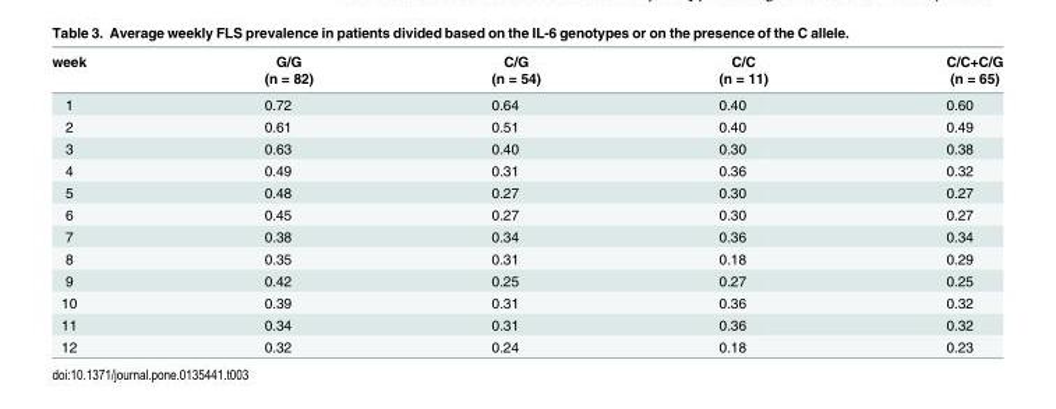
<table><thead><tr><td rowspan="2">week</td><td rowspan="2">G/G (n = 82)</td><td rowspan="2">C/G (n = 54)</td><td rowspan="2">C/C (n = 11)</td><td rowspan="2">C/C+C/G (n = 65)</td></tr><tr></tr></thead><tbody><tr><td>1</td><td>0.72</td><td>0.64</td><td>0.40</td><td>0.60</td></tr><tr><td>2</td><td>0.61</td><td>0.51</td><td>0.40</td><td>0.49</td></tr><tr><td>3</td><td>0.63</td><td>0.40</td><td>0.30</td><td>0.38</td></tr><tr><td>4</td><td>0.49</td><td>0.31</td><td>0.36</td><td>0.32</td></tr><tr><td>5</td><td>0.48</td><td>0.27</td><td>0.30</td><td>0.27</td></tr><tr><td>6</td><td>0.45</td><td>0.27</td><td>0.30</td><td>0.27</td></tr><tr><td>7</td><td>0.38</td><td>0.34</td><td>0.36</td><td>0.34</td></tr><tr><td>8</td><td>0.35</td><td>0.31</td><td>0.18</td><td>0.29</td></tr><tr><td>9</td><td>0.42</td><td>0.25</td><td>0.27</td><td>0.25</td></tr><tr><td>10</td><td>0.39</td><td>0.31</td><td>0.36</td><td>0.32</td></tr><tr><td>11</td><td>0.34</td><td>0.31</td><td>0.36</td><td>0.32</td></tr><tr><td>12</td><td>0.32</td><td>0.24</td><td>0.18</td><td>0.23</td></tr></tbody></table>